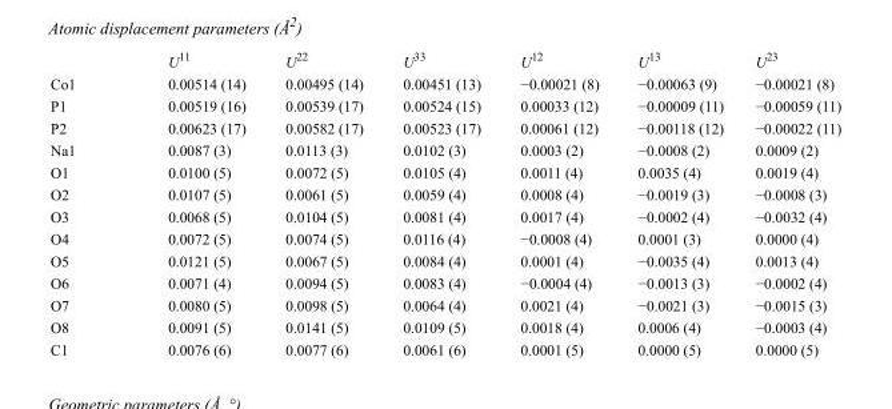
<table><thead><tr><td></td><td>U<sup>11</sup></td><td>U<sup>22</sup></td><td>U<sup>33</sup></td><td>U<sup>12</sup></td><td>U<sup>13</sup></td><td>U<sup>23</sup></td></tr></thead><tbody><tr><td>Co1</td><td>0.00514 (14)</td><td>0.00495 (14)</td><td>0.00451 (13)</td><td>−0.00021 (8)</td><td>−0.00063 (9)</td><td>−0.00021 (8)</td></tr><tr><td>P1</td><td>0.00519 (16)</td><td>0.00539 (17)</td><td>0.00524 (15)</td><td>0.00033 (12)</td><td>−0.00009 (11)</td><td>−0.00059 (11)</td></tr><tr><td>P2</td><td>0.00623 (17)</td><td>0.00582 (17)</td><td>0.00523 (17)</td><td>0.00061 (12)</td><td>−0.00118 (12)</td><td>−0.00022 (11)</td></tr><tr><td>Na1</td><td>0.0087 (3)</td><td>0.0113 (3)</td><td>0.0102 (3)</td><td>0.0003 (2)</td><td>−0.0008 (2)</td><td>0.0009 (2)</td></tr><tr><td>O1</td><td>0.0100 (5)</td><td>0.0072 (5)</td><td>0.0105 (4)</td><td>0.0011 (4)</td><td>0.0035 (4)</td><td>0.0019 (4)</td></tr><tr><td>O2</td><td>0.0107 (5)</td><td>0.0061 (5)</td><td>0.0059 (4)</td><td>0.0008 (4)</td><td>−0.0019 (3)</td><td>−0.0008 (3)</td></tr><tr><td>O3</td><td>0.0068 (5)</td><td>0.0104 (5)</td><td>0.0081 (4)</td><td>0.0017 (4)</td><td>−0.0002 (4)</td><td>−0.0032 (4)</td></tr><tr><td>O4</td><td>0.0072 (5)</td><td>0.0074 (5)</td><td>0.0116 (4)</td><td>−0.0008 (4)</td><td>0.0001 (3)</td><td>0.0000 (4)</td></tr><tr><td>O5</td><td>0.0121 (5)</td><td>0.0067 (5)</td><td>0.0084 (4)</td><td>0.0001 (4)</td><td>−0.0035 (4)</td><td>0.0013 (4)</td></tr><tr><td>O6</td><td>0.0071 (4)</td><td>0.0094 (5)</td><td>0.0083 (4)</td><td>−0.0004 (4)</td><td>−0.0013 (3)</td><td>−0.0002 (4)</td></tr><tr><td>O7</td><td>0.0080 (5)</td><td>0.0098 (5)</td><td>0.0064 (4)</td><td>0.0021 (4)</td><td>−0.0021 (3)</td><td>−0.0015 (3)</td></tr><tr><td>O8</td><td>0.0091 (5)</td><td>0.0141 (5)</td><td>0.0109 (5)</td><td>0.0018 (4)</td><td>0.0006 (4)</td><td>−0.0003 (4)</td></tr><tr><td>C1</td><td>0.0076 (6)</td><td>0.0077 (6)</td><td>0.0061 (6)</td><td>0.0001 (5)</td><td>0.0000 (5)</td><td>0.0000 (5)</td></tr></tbody></table>